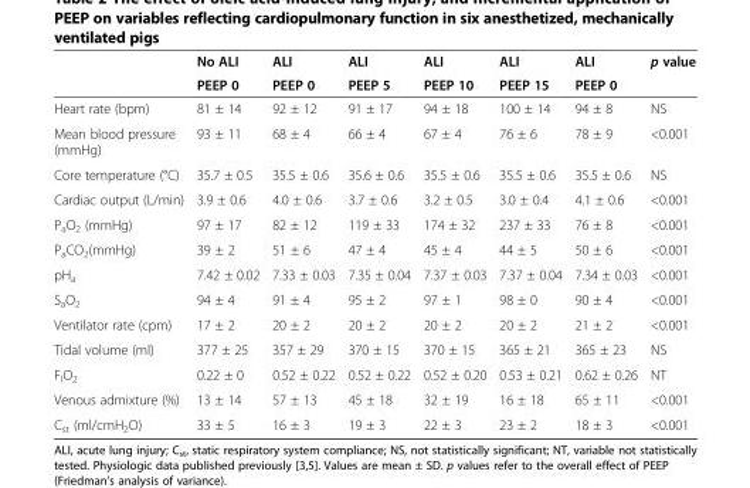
<table><thead><tr><td rowspan="2"></td><td rowspan="2">No ALI PEEP 0</td><td rowspan="2">ALI PEEP 0</td><td rowspan="2">ALI PEEP 5</td><td rowspan="2">ALI PEEP 10</td><td rowspan="2">ALI PEEP 15</td><td rowspan="2">ALI PEEP 0</td><td rowspan="2">p value</td></tr><tr></tr></thead><tbody><tr><td>Heart rate (bpm)</td><td>81 ± 14</td><td>92 ± 12</td><td>91 ± 17</td><td>94 ± 18</td><td>100 ± 14</td><td>94 ± 8</td><td>NS</td></tr><tr><td>Mean blood pressure (mmHg)</td><td>93 ± 11</td><td>68 ± 4</td><td>66 ± 4</td><td>67 ± 4</td><td>76 ± 6</td><td>78 ± 9</td><td>&lt;0.001</td></tr><tr><td>Core temperature (°C)</td><td>35.7 ± 0.5</td><td>35.5 ± 0.6</td><td>35.6 ± 0.6</td><td>35.5 ± 0.6</td><td>35.5 ± 0.6</td><td>35.5 ± 0.6</td><td>NS</td></tr><tr><td>Cardiac output (L/min)</td><td>3.9 ± 0.6</td><td>4.0 ± 0.6</td><td>3.7 ± 0.6</td><td>3.2 ± 0.5</td><td>3.0 ± 0.4</td><td>4.1 ± 0.6</td><td>&lt;0.001</td></tr><tr><td>P<sub>a</sub>O<sub>2</sub> (mmHg)</td><td>97 ± 17</td><td>82 ± 12</td><td>119 ± 33</td><td>174 ± 32</td><td>237 ± 33</td><td>76 ± 8</td><td>&lt;0.001</td></tr><tr><td>P<sub>a</sub>CO<sub>2</sub>(mmHg)</td><td>39 ± 2</td><td>51 ± 6</td><td>47 ± 4</td><td>45 ± 4</td><td>44 ± 5</td><td>50 ± 6</td><td>&lt;0.001</td></tr><tr><td>pH<sub>a</sub></td><td>7.42 ± 0.02</td><td>7.33 ± 0.03</td><td>7.35 ± 0.04</td><td>7.37 ± 0.03</td><td>7.37 ± 0.04</td><td>7.34 ± 0.03</td><td>&lt;0.001</td></tr><tr><td>S<sub>a</sub>O<sub>2</sub></td><td>94 ± 4</td><td>91 ± 4</td><td>95 ± 2</td><td>97 ± 1</td><td>98 ± 0</td><td>90 ± 4</td><td>&lt;0.001</td></tr><tr><td>Ventilator rate (cpm)</td><td>17 ± 2</td><td>20 ± 2</td><td>20 ± 2</td><td>20 ± 2</td><td>20 ± 2</td><td>21 ± 2</td><td>&lt;0.001</td></tr><tr><td>Tidal volume (ml)</td><td>377 ± 25</td><td>357 ± 29</td><td>370 ± 15</td><td>370 ± 15</td><td>365 ± 21</td><td>365 ± 23</td><td>NS</td></tr><tr><td>F<sub>I</sub>O<sub>2</sub></td><td>0.22 ± 0</td><td>0.52 ± 0.22</td><td>0.52 ± 0.22</td><td>0.52 ± 0.20</td><td>0.53 ± 0.21</td><td>0.62 ± 0.26</td><td>NT</td></tr><tr><td>Venous admixture (%)</td><td>13 ± 14</td><td>57 ± 13</td><td>45 ± 18</td><td>32 ± 19</td><td>16 ± 18</td><td>65 ± 11</td><td>&lt;0.001</td></tr><tr><td>C<sub>st</sub> (ml/cmH<sub>2</sub>O)</td><td>33 ± 5</td><td>16 ± 3</td><td>19 ± 3</td><td>22 ± 3</td><td>23 ± 2</td><td>18 ± 3</td><td>&lt;0.001</td></tr></tbody></table>